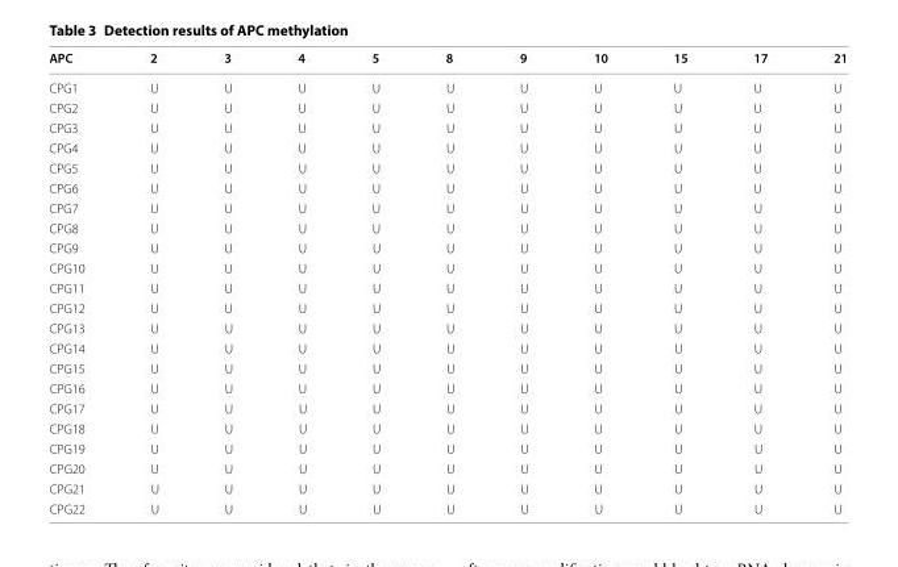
<table><thead><tr><td>APC</td><td>2</td><td>3</td><td>4</td><td>5</td><td>8</td><td>9</td><td>10</td><td>15</td><td>17</td><td>21</td></tr></thead><tbody><tr><td>CPG1</td><td>U</td><td>U</td><td>U</td><td>U</td><td>U</td><td>U</td><td>U</td><td>U</td><td>U</td><td>U</td></tr><tr><td>CPG2</td><td>U</td><td>U</td><td>U</td><td>U</td><td>U</td><td>U</td><td>U</td><td>U</td><td>U</td><td>U</td></tr><tr><td>CPG3</td><td>U</td><td>U</td><td>U</td><td>U</td><td>U</td><td>U</td><td>U</td><td>U</td><td>U</td><td>U</td></tr><tr><td>CPG4</td><td>U</td><td>U</td><td>U</td><td>U</td><td>U</td><td>U</td><td>U</td><td>U</td><td>U</td><td>U</td></tr><tr><td>CPG5</td><td>U</td><td>U</td><td>U</td><td>U</td><td>U</td><td>U</td><td>U</td><td>U</td><td>U</td><td>U</td></tr><tr><td>CPG6</td><td>U</td><td>U</td><td>U</td><td>U</td><td>U</td><td>U</td><td>U</td><td>U</td><td>U</td><td>U</td></tr><tr><td>CPG7</td><td>U</td><td>U</td><td>U</td><td>U</td><td>U</td><td>U</td><td>U</td><td>U</td><td>U</td><td>U</td></tr><tr><td>CPG8</td><td>U</td><td>U</td><td>U</td><td>U</td><td>U</td><td>U</td><td>U</td><td>U</td><td>U</td><td>U</td></tr><tr><td>CPG9</td><td>U</td><td>U</td><td>U</td><td>U</td><td>U</td><td>U</td><td>U</td><td>U</td><td>U</td><td>U</td></tr><tr><td>CPG10</td><td>U</td><td>U</td><td>U</td><td>U</td><td>U</td><td>U</td><td>U</td><td>U</td><td>U</td><td>U</td></tr><tr><td>CPG11</td><td>U</td><td>U</td><td>U</td><td>U</td><td>U</td><td>U</td><td>U</td><td>U</td><td>U</td><td>U</td></tr><tr><td>CPG12</td><td>U</td><td>U</td><td>U</td><td>U</td><td>U</td><td>U</td><td>U</td><td>U</td><td>U</td><td>U</td></tr><tr><td>CPG13</td><td>U</td><td>U</td><td>U</td><td>U</td><td>U</td><td>U</td><td>U</td><td>U</td><td>U</td><td>U</td></tr><tr><td>CPG14</td><td>U</td><td>U</td><td>U</td><td>U</td><td>U</td><td>U</td><td>U</td><td>U</td><td>U</td><td>U</td></tr><tr><td>CPG15</td><td>U</td><td>U</td><td>U</td><td>U</td><td>U</td><td>U</td><td>U</td><td>U</td><td>U</td><td>U</td></tr><tr><td>CPG16</td><td>U</td><td>U</td><td>U</td><td>U</td><td>U</td><td>U</td><td>U</td><td>U</td><td>U</td><td>U</td></tr><tr><td>CPG17</td><td>U</td><td>U</td><td>U</td><td>U</td><td>U</td><td>U</td><td>U</td><td>U</td><td>U</td><td>U</td></tr><tr><td>CPG18</td><td>U</td><td>U</td><td>U</td><td>U</td><td>U</td><td>U</td><td>U</td><td>U</td><td>U</td><td>U</td></tr><tr><td>CPG19</td><td>U</td><td>U</td><td>U</td><td>U</td><td>U</td><td>U</td><td>U</td><td>U</td><td>U</td><td>U</td></tr><tr><td>CPG20</td><td>U</td><td>U</td><td>U</td><td>U</td><td>U</td><td>U</td><td>U</td><td>U</td><td>U</td><td>U</td></tr><tr><td>CPG21</td><td>U</td><td>U</td><td>U</td><td>U</td><td>U</td><td>U</td><td>U</td><td>U</td><td>U</td><td>U</td></tr><tr><td>CPG22</td><td>U</td><td>U</td><td>U</td><td>U</td><td>U</td><td>U</td><td>U</td><td>U</td><td>U</td><td>U</td></tr></tbody></table>